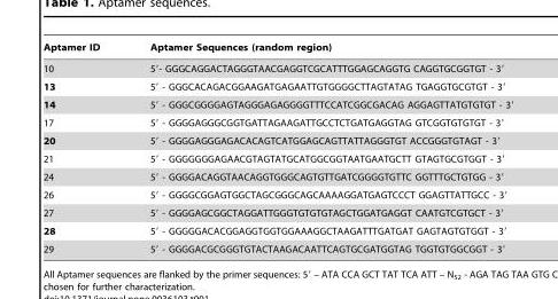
<table><thead><tr><td>Aptamer ID</td><td>Aptamer Sequences (random region)</td></tr></thead><tbody><tr><td>10</td><td>5′- GGGCAGGACTAGGGTAACGAGGTCGCATTTGGAGCAGGTG CAGGTGCGGTGT - 3′</td></tr><tr><td>13</td><td>5′ - GGGCACAGACGGAAGATGAGAATTGTGGGGCTTAGTATAG TGAGGTGCGTGT - 3′</td></tr><tr><td>14</td><td>5′ - GGGCGGGGAGTAGGGAGAGGGGTTTCCATCGGCGACAG AGGAGTTATGTGTGT - 3′</td></tr><tr><td>17</td><td>5′ - GGGGAGGGCGGTGATTAGAAGATTGCCTCTGATGAGGTAG GTCGGTGTGTGT - 3′</td></tr><tr><td>20</td><td>5′ - GGGGAGGGAGACACAGTCATGGAGCAGTTATTAGGGTGT ACCGGGTGTAGT - 3′</td></tr><tr><td>21</td><td>5′ - GGGGGGGAGAACGTAGTATGCATGGCGGTAATGAATGCTT GTAGTGCGTGGT - 3′</td></tr><tr><td>24</td><td>5′ - GGGGACAGGTAACAGGTGGGCAGTGTTGATCGGGGTGTTC GGTTTGCTGTGG - 3′</td></tr><tr><td>26</td><td>5′ - GGGGCGGAGTGGCTAGCGGGCAGCAAAAGGATGAGTCCCT GGAGTTATTGCC - 3′</td></tr><tr><td>27</td><td>5′ - GGGGAGCGGCTAGGATTGGGTGTGTGTAGCTGGATGAGGT CAATGTCGTGCT - 3′</td></tr><tr><td>28</td><td>5′ - GGGGGACACGGAGGTGGTGGAAAGGCTAAGATTTGATGAT GAGTAGTGTGGT - 3′</td></tr><tr><td>29</td><td>5′ - GGGGACGCGGGTGTACTAAGACAATTCAGTGCGATGGTAG TGGTGTGGCGGT - 3′</td></tr></tbody></table>